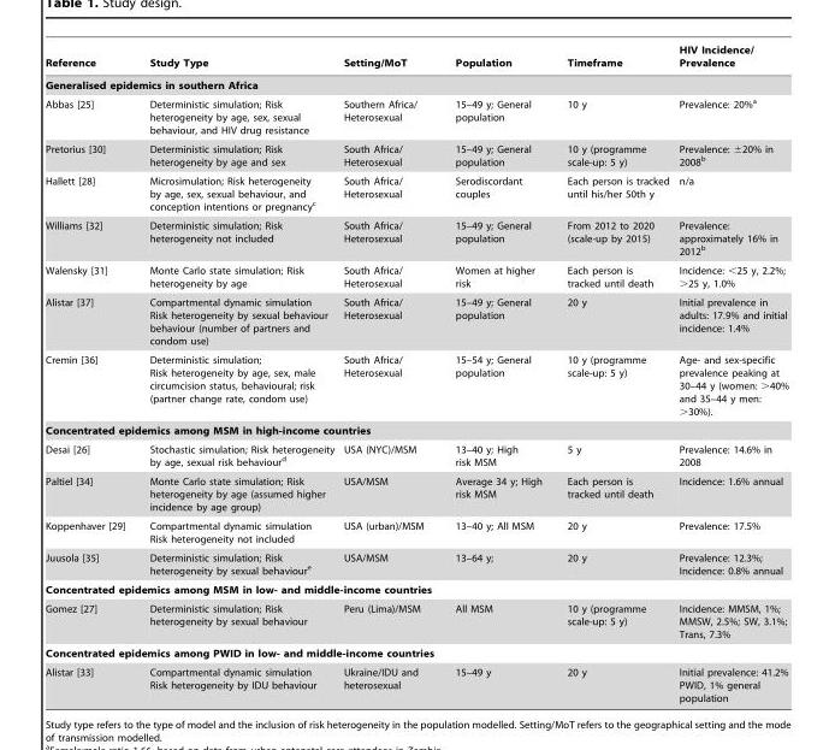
<table><thead><tr><td>Reference</td><td>Study Type</td><td>Setting/MoT</td><td>Population</td><td>Timeframe</td><td>HIV Incidence/ Prevalence</td></tr></thead><tbody><tr><td colspan="6">Generalised epidemics in southern Africa</td></tr><tr><td>Abbas [25]</td><td>Deterministic simulation; Risk heterogeneity by age, sex, sexual behaviour, and HIV drug resistance</td><td>Southern Africa/ Heterosexual</td><td>15–49 y; General population</td><td>10 y</td><td>Prevalence: 20%<sup>a</sup></td></tr><tr><td>Pretorius [30]</td><td>Deterministic simulation; Risk heterogeneity by age and sex</td><td>South Africa/ Heterosexual</td><td>15–49 y; General population</td><td>10 y (programme scale-up: 5 y)</td><td>Prevalence: ±20% in 2008<sup>b</sup></td></tr><tr><td>Hallett [28]</td><td>Microsimulation; Risk heterogeneity by age, sex, sexual behaviour, and conception intentions or pregnancy<sup>c</sup></td><td>South Africa/ Heterosexual</td><td>Serodiscordant couples</td><td>Each person is tracked until his/her 50th y</td><td>n/a</td></tr><tr><td>Williams [32]</td><td>Deterministic simulation; Risk heterogeneity not included</td><td>South Africa/ Heterosexual</td><td>15–49 y; General population</td><td>From 2012 to 2020 (scale-up by 2015)</td><td>Prevalence: approximately 16% in 2012<sup>b</sup></td></tr><tr><td>Walensky [31]</td><td>Monte Carlo state simulation; Risk heterogeneity by age</td><td>South Africa/ Heterosexual</td><td>Women at higher risk</td><td>Each person is tracked until death</td><td>Incidence: &lt;25 y, 2.2%; &gt;25 y, 1.0%</td></tr><tr><td>Alistar [37]</td><td>Compartmental dynamic simulation Risk heterogeneity by sexual behaviour behaviour (number of partners and condom use)</td><td>South Africa/ Heterosexual</td><td>15–49 y; General population</td><td>20 y</td><td>Initial prevalence in adults: 17.9% and initial incidence: 1.4%</td></tr><tr><td>Cremin [36]</td><td>Deterministic simulation; Risk heterogeneity by age, sex, male circumcision status, behavioural; risk (partner change rate, condom use)</td><td>South Africa/ Heterosexual</td><td>15–54 y; General population</td><td>10 y (programme scale-up: 5 y)</td><td>Age- and sex-specific prevalence peaking at 30–44 y (women: &gt;40% and 35–44 y men: &gt;30%).</td></tr><tr><td colspan="6">Concentrated epidemics among MSM in high-income countries</td></tr><tr><td>Desai [26]</td><td>Stochastic simulation; Risk heterogeneity by age, sexual risk behaviour<sup>d</sup></td><td>USA (NYC)/MSM</td><td>13–40 y; High risk MSM</td><td>5 y</td><td>Prevalence: 14.6% in 2008</td></tr><tr><td>Paltiel [34]</td><td>Monte Carlo state simulation; Risk heterogeneity by age (assumed higher incidence by age group)</td><td>USA/MSM</td><td>Average 34 y; High risk MSM</td><td>Each person is tracked until death</td><td>Incidence: 1.6% annual</td></tr><tr><td>Koppenhaver [29]</td><td>Compartmental dynamic simulation Risk heterogeneity not included</td><td>USA (urban)/MSM</td><td>13–40 y; All MSM</td><td>20 y</td><td>Prevalence: 17.5%</td></tr><tr><td>Juusola [35]</td><td>Deterministic simulation; Risk heterogeneity by sexual behaviour<sup>e</sup></td><td>USA/MSM</td><td>13–64 y;</td><td>20 y</td><td>Prevalence: 12.3%; Incidence: 0.8% annual</td></tr><tr><td colspan="6">Concentrated epidemics among MSM in low- and middle-income countries</td></tr><tr><td>Gomez [27]</td><td>Deterministic simulation; Risk heterogeneity by sexual behaviour</td><td>Peru (Lima)/MSM</td><td>All MSM</td><td>10 y (programme scale-up: 5 y)</td><td>Incidence: MMSM, 1%; MMSW, 2.5%; SW, 3.1%; Trans, 7.3%</td></tr><tr><td colspan="6">Concentrated epidemics among PWID in low- and middle-income countries</td></tr><tr><td>Alistar [33]</td><td>Compartmental dynamic simulation Risk heterogeneity by IDU behaviour</td><td>Ukraine/IDU and heterosexual</td><td>15–49 y</td><td>20 y</td><td>Initial prevalence: 41.2% PWID, 1% general population</td></tr></tbody></table>